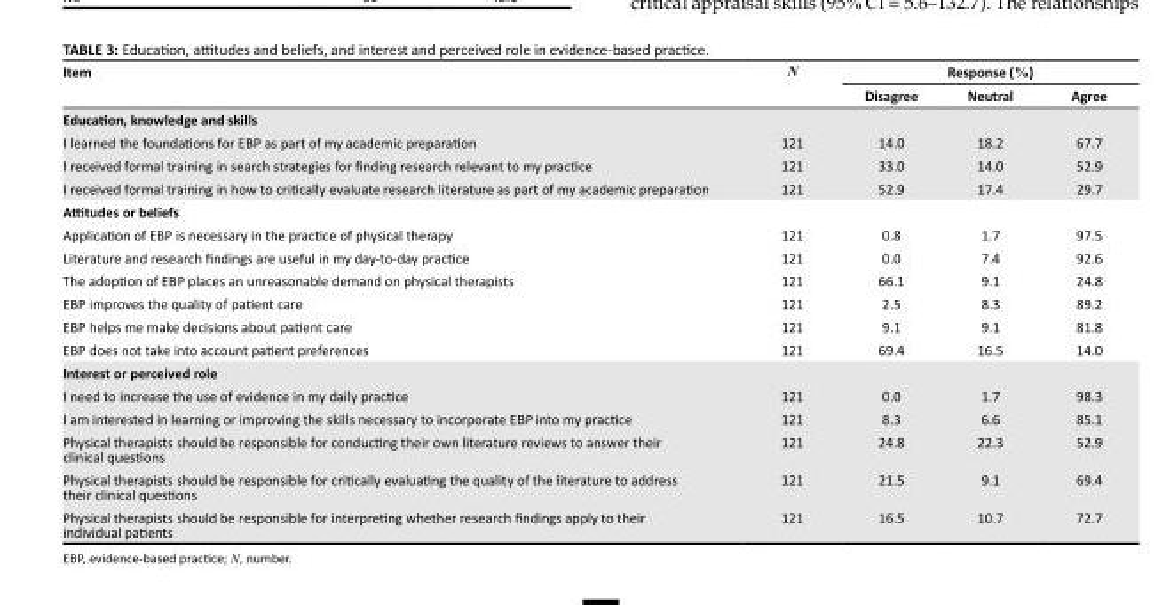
<table><thead><tr><td rowspan="2">Item</td><td rowspan="2">N</td><td colspan="3">Response (%)</td></tr><tr><td>Disagree</td><td>Neutral</td><td>Agree</td></tr></thead><tbody><tr><td colspan="5">Education, knowledge and skills</td></tr><tr><td>I learned the foundations for EBP as part of my academic preparation</td><td>121</td><td>14.0</td><td>18.2</td><td>67.7</td></tr><tr><td>I received formal training in search strategies for finding research relevant to my practice</td><td>121</td><td>33.0</td><td>14.0</td><td>52.9</td></tr><tr><td>I received formal training in how to critically evaluate research literature as part of my academic preparation</td><td>121</td><td>52.9</td><td>17.4</td><td>29.7</td></tr><tr><td colspan="5">Attitudes or beliefs</td></tr><tr><td>Application of EBP is necessary in the practice of physical therapy</td><td>121</td><td>0.8</td><td>1.7</td><td>97.5</td></tr><tr><td>Literature and research findings are useful in my day-to-day practice</td><td>121</td><td>0.0</td><td>7.4</td><td>92.6</td></tr><tr><td>The adoption of EBP places an unreasonable demand on physical therapists</td><td>121</td><td>66.1</td><td>9.1</td><td>24.8</td></tr><tr><td>EBP improves the quality of patient care</td><td>121</td><td>2.5</td><td>8.3</td><td>89.2</td></tr><tr><td>EBP helps me make decisions about patient care</td><td>121</td><td>9.1</td><td>9.1</td><td>81.8</td></tr><tr><td>EBP does not take into account patient preferences</td><td>121</td><td>69.4</td><td>16.5</td><td>14.0</td></tr><tr><td colspan="5">Interest or perceived role</td></tr><tr><td>I need to increase the use of evidence in my daily practice</td><td>121</td><td>0.0</td><td>1.7</td><td>98.3</td></tr><tr><td>I am interested in learning or improving the skills necessary to incorporate EBP into my practice</td><td>121</td><td>8.3</td><td>6.6</td><td>85.1</td></tr><tr><td>Physical therapists should be responsible for conducting their own literature reviews to answer their clinical questions</td><td>121</td><td>24.8</td><td>22.3</td><td>52.9</td></tr><tr><td>Physical therapists should be responsible for critically evaluating the quality of the literature to address their clinical questions</td><td>121</td><td>21.5</td><td>9.1</td><td>69.4</td></tr><tr><td>Physical therapists should be responsible for interpreting whether research findings apply to their individual patients</td><td>121</td><td>16.5</td><td>10.7</td><td>72.7</td></tr></tbody></table>